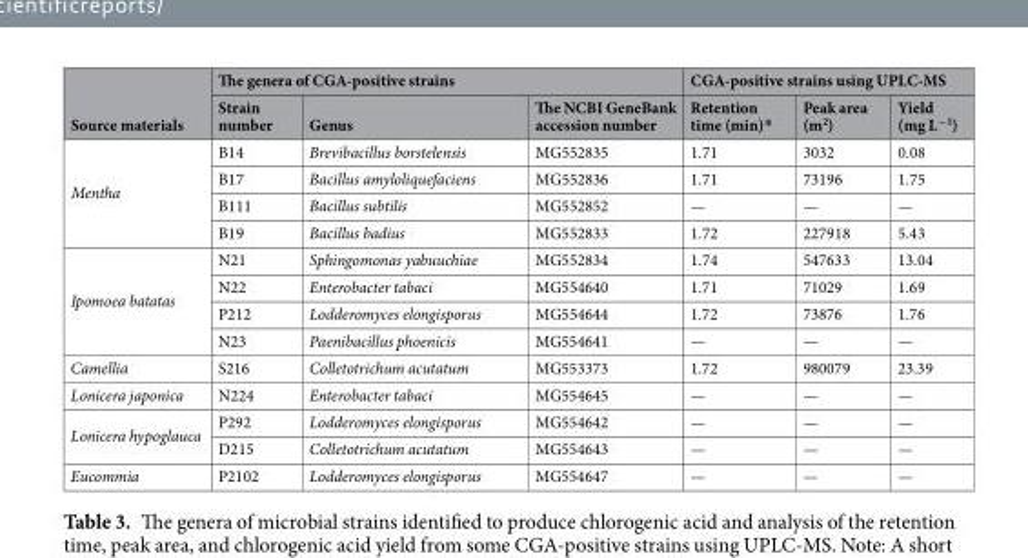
<table><thead><tr><td rowspan="2">Source materials</td><td colspan="3">The genera of CGA-positive strains</td><td colspan="3">CGA-positive strains using UPLC-MS</td></tr><tr><td>Strain number</td><td>Genus</td><td>The NCBI GeneBank accession number</td><td>Retention time (min)*</td><td>Peak area (m<sup>2</sup>)</td><td>Yield (mg L<sup>−1</sup>)</td></tr></thead><tbody><tr><td rowspan="4">Mentha</td><td>B14</td><td>Brevibacillus borstelensis</td><td>MG552835</td><td>1.71</td><td>3032</td><td>0.08</td></tr><tr><td>B17</td><td>Bacillus amyloliquefaciens</td><td>MG552836</td><td>1.71</td><td>73196</td><td>1.75</td></tr><tr><td>B111</td><td>Bacillus subtilis</td><td>MG552852</td><td>—</td><td>—</td><td>—</td></tr><tr><td>B19</td><td>Bacillus badius</td><td>MG552833</td><td>1.72</td><td>227918</td><td>5.43</td></tr><tr><td rowspan="4">Ipomoea batatas</td><td>N21</td><td>Sphingomonas yabuuchiae</td><td>MG552834</td><td>1.74</td><td>547633</td><td>13.04</td></tr><tr><td>N22</td><td>Enterobacter tabaci</td><td>MG554640</td><td>1.71</td><td>71029</td><td>1.69</td></tr><tr><td>P212</td><td>Lodderomyces elongisporus</td><td>MG554644</td><td>1.72</td><td>73876</td><td>1.76</td></tr><tr><td>N23</td><td>Paenibacillus phoenicis</td><td>MG554641</td><td>—</td><td>—</td><td>—</td></tr><tr><td>Camellia</td><td>S216</td><td>Colletotrichum acutatum</td><td>MG553373</td><td>1.72</td><td>980079</td><td>23.39</td></tr><tr><td>Lonicera japonica</td><td>N224</td><td>Enterobacter tabaci</td><td>MG554645</td><td>—</td><td>—</td><td>—</td></tr><tr><td rowspan="2">Lonicera hypoglauca</td><td>P292</td><td>Lodderomyces elongisporus</td><td>MG554642</td><td>—</td><td>—</td><td>—</td></tr><tr><td>D215</td><td>Colletotrichum acutatum</td><td>MG554643</td><td>—</td><td>—</td><td>—</td></tr><tr><td>Eucommia</td><td>P2102</td><td>Lodderomyces elongisporus</td><td>MG554647</td><td>—</td><td>—</td><td>—</td></tr></tbody></table>